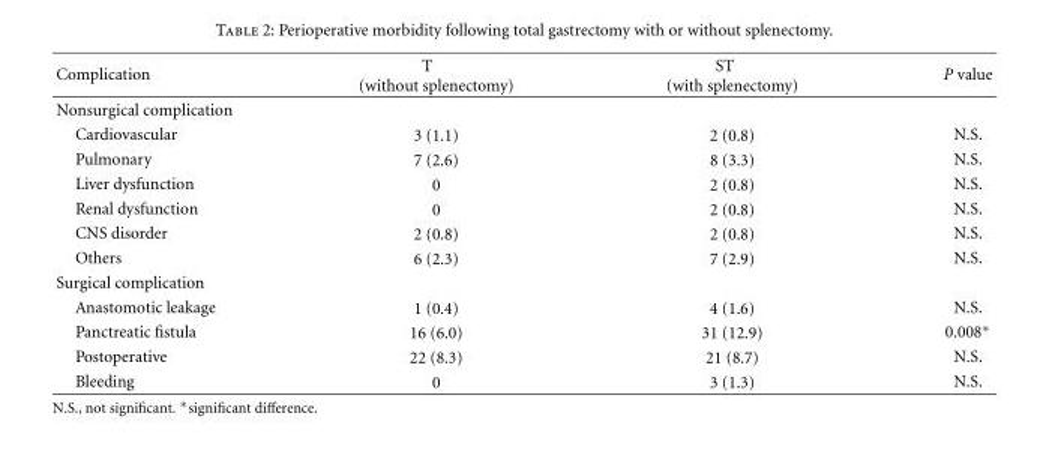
<table><thead><tr><td>Complication</td><td>T (without splenectomy)</td><td>ST (with splenectomy)</td><td>P value</td></tr></thead><tbody><tr><td colspan="4">Nonsurgical complication</td></tr><tr><td>Cardiovascular</td><td>3 (1.1)</td><td>2 (0.8)</td><td>N.S.</td></tr><tr><td>Pulmonary</td><td>7 (2.6)</td><td>8 (3.3)</td><td>N.S.</td></tr><tr><td>Liver dysfunction</td><td>0</td><td>2 (0.8)</td><td>N.S.</td></tr><tr><td>Renal dysfunction</td><td>0</td><td>2 (0.8)</td><td>N.S.</td></tr><tr><td>CNS disorder</td><td>2 (0.8)</td><td>2 (0.8)</td><td>N.S.</td></tr><tr><td>Others</td><td>6 (2.3)</td><td>7 (2.9)</td><td>N.S.</td></tr><tr><td colspan="4">Surgical complication</td></tr><tr><td>Anastomotic leakage</td><td>1 (0.4)</td><td>4 (1.6)</td><td>N.S.</td></tr><tr><td>Panctreatic fistula</td><td>16 (6.0)</td><td>31 (12.9)</td><td>0.008∗</td></tr><tr><td>Postoperative</td><td>22 (8.3)</td><td>21 (8.7)</td><td>N.S.</td></tr><tr><td>Bleeding</td><td>0</td><td>3 (1.3)</td><td>N.S.</td></tr></tbody></table>